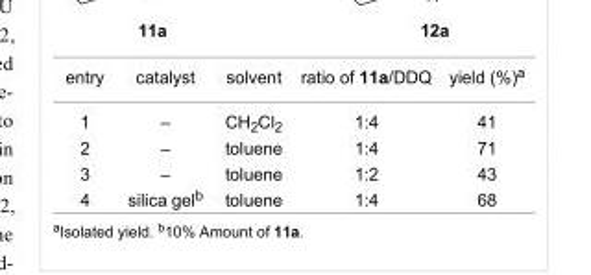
<table><tbody><tr><td>entry</td><td>catalyst</td><td>solvent</td><td>ratio of 11a/DDQ</td><td>yield (%)<sup>a</sup></td></tr><tr><td>1</td><td>–</td><td>CH<sub>2</sub>Cl<sub>2</sub></td><td>1:4</td><td>41</td></tr><tr><td>2</td><td>–</td><td>toluene</td><td>1:4</td><td>71</td></tr><tr><td>3</td><td>–</td><td>toluene</td><td>1:2</td><td>43</td></tr><tr><td>4</td><td>silica gel<sup>b</sup></td><td>toluene</td><td>1:4</td><td>68</td></tr></tbody></table>